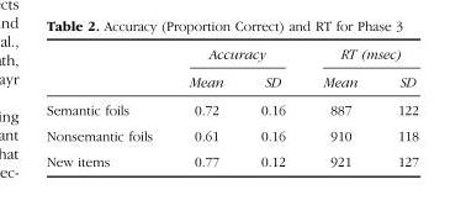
<table><thead><tr><td rowspan="2"></td><td colspan="2">Accuracy</td><td colspan="2">RT (msec)</td></tr><tr><td>Mean</td><td>SD</td><td>Mean</td><td>SD</td></tr></thead><tbody><tr><td>Semantic foils</td><td>0.72</td><td>0.16</td><td>887</td><td>122</td></tr><tr><td>Nonsemantic foils</td><td>0.61</td><td>0.16</td><td>910</td><td>118</td></tr><tr><td>New items</td><td>0.77</td><td>0.12</td><td>921</td><td>127</td></tr></tbody></table>